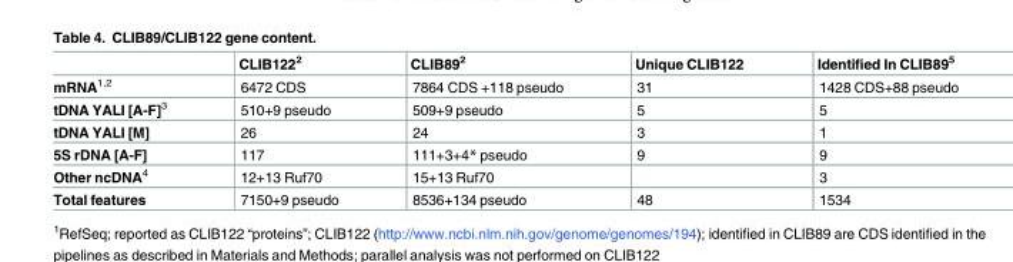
<table><thead><tr><td></td><td>CLIB122<sup>2</sup></td><td>CLIB89<sup>2</sup></td><td>Unique CLIB122</td><td>Identified In CLIB89<sup>5</sup></td></tr></thead><tbody><tr><td>mRNA<sup>1,2</sup></td><td>6472 CDS</td><td>7864 CDS +118 pseudo</td><td>31</td><td>1428 CDS+88 pseudo</td></tr><tr><td>tDNA YALI [A-F]<sup>3</sup></td><td>510+9 pseudo</td><td>509+9 pseudo</td><td>5</td><td>5</td></tr><tr><td>tDNA YALI [M]</td><td>26</td><td>24</td><td>3</td><td>1</td></tr><tr><td>5S rDNA [A-F]</td><td>117</td><td>111+3+4* pseudo</td><td>9</td><td>9</td></tr><tr><td>Other ncDNA<sup>4</sup></td><td>12+13 Ruf70</td><td>15+13 Ruf70</td><td></td><td>3</td></tr><tr><td>Total features</td><td>7150+9 pseudo</td><td>8536+134 pseudo</td><td>48</td><td>1534</td></tr></tbody></table>